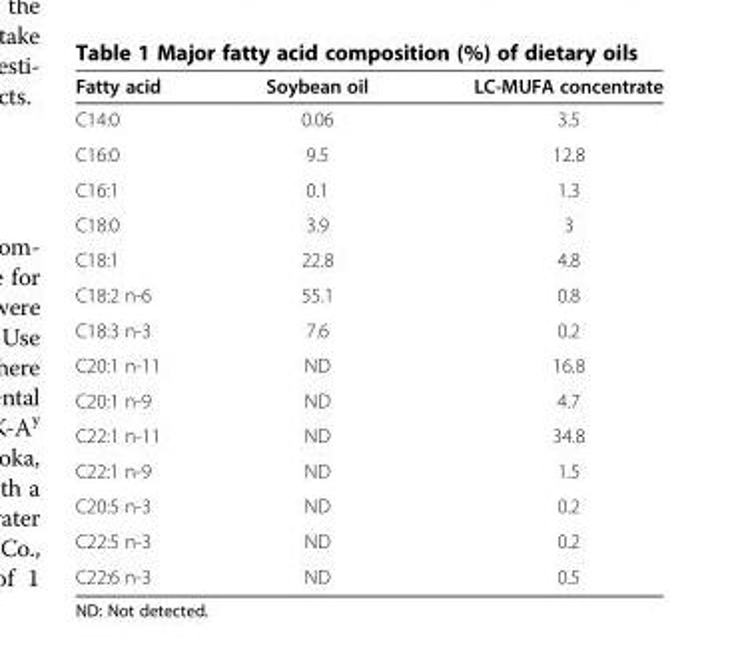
<table><thead><tr><td>Fatty acid</td><td>Soybean oil</td><td>LC-MUFA concentrate</td></tr></thead><tbody><tr><td>C14:0</td><td>0.06</td><td>3.5</td></tr><tr><td>C16:0</td><td>9.5</td><td>12.8</td></tr><tr><td>C16:1</td><td>0.1</td><td>1.3</td></tr><tr><td>C18:0</td><td>3.9</td><td>3</td></tr><tr><td>C18:1</td><td>22.8</td><td>4.8</td></tr><tr><td>C18:2 n-6</td><td>55.1</td><td>0.8</td></tr><tr><td>C18:3 n-3</td><td>7.6</td><td>0.2</td></tr><tr><td>C20:1 n-11</td><td>ND</td><td>16.8</td></tr><tr><td>C20:1 n-9</td><td>ND</td><td>4.7</td></tr><tr><td>C22:1 n-11</td><td>ND</td><td>34.8</td></tr><tr><td>C22:1 n-9</td><td>ND</td><td>1.5</td></tr><tr><td>C20:5 n-3</td><td>ND</td><td>0.2</td></tr><tr><td>C22:5 n-3</td><td>ND</td><td>0.2</td></tr><tr><td>C22:6 n-3</td><td>ND</td><td>0.5</td></tr></tbody></table>